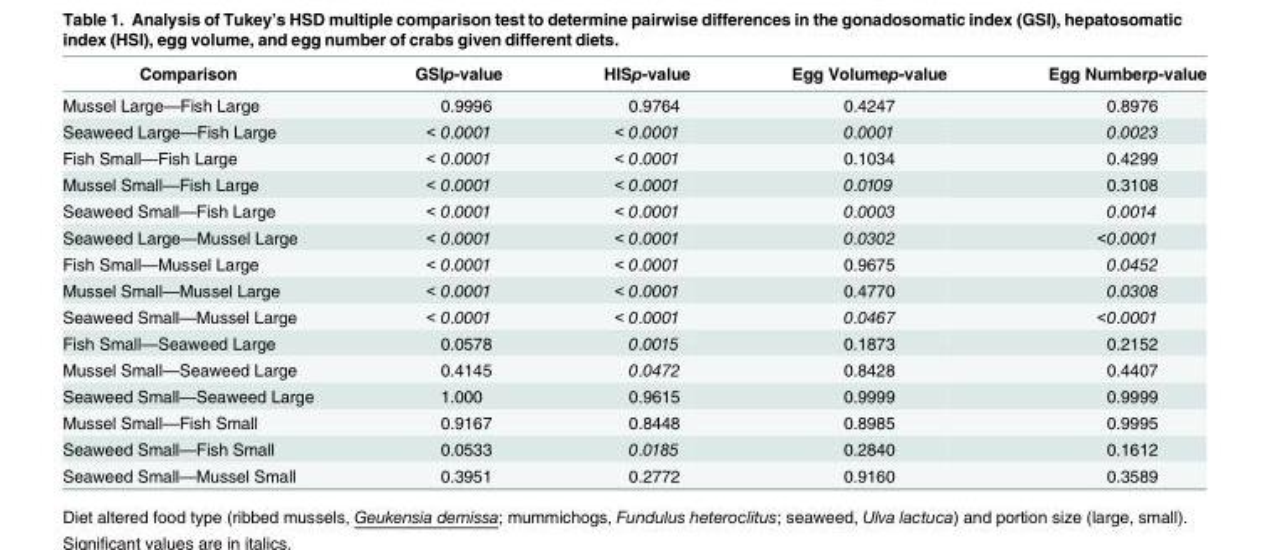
<table><thead><tr><td>Comparison</td><td>GSIp-value</td><td>HISp-value</td><td>Egg Volumep-value</td><td>Egg Numberp-value</td></tr></thead><tbody><tr><td>Mussel Large—Fish Large</td><td>0.9996</td><td>0.9764</td><td>0.4247</td><td>0.8976</td></tr><tr><td>Seaweed Large—Fish Large</td><td>&lt; 0.0001</td><td>&lt; 0.0001</td><td>0.0001</td><td>0.0023</td></tr><tr><td>Fish Small—Fish Large</td><td>&lt; 0.0001</td><td>&lt; 0.0001</td><td>0.1034</td><td>0.4299</td></tr><tr><td>Mussel Small—Fish Large</td><td>&lt; 0.0001</td><td>&lt; 0.0001</td><td>0.0109</td><td>0.3108</td></tr><tr><td>Seaweed Small—Fish Large</td><td>&lt; 0.0001</td><td>&lt; 0.0001</td><td>0.0003</td><td>0.0014</td></tr><tr><td>Seaweed Large—Mussel Large</td><td>&lt; 0.0001</td><td>&lt; 0.0001</td><td>0.0302</td><td>&lt;0.0001</td></tr><tr><td>Fish Small—Mussel Large</td><td>&lt; 0.0001</td><td>&lt; 0.0001</td><td>0.9675</td><td>0.0452</td></tr><tr><td>Mussel Small—Mussel Large</td><td>&lt; 0.0001</td><td>&lt; 0.0001</td><td>0.4770</td><td>0.0308</td></tr><tr><td>Seaweed Small—Mussel Large</td><td>&lt; 0.0001</td><td>&lt; 0.0001</td><td>0.0467</td><td>&lt;0.0001</td></tr><tr><td>Fish Small—Seaweed Large</td><td>0.0578</td><td>0.0015</td><td>0.1873</td><td>0.2152</td></tr><tr><td>Mussel Small—Seaweed Large</td><td>0.4145</td><td>0.0472</td><td>0.8428</td><td>0.4407</td></tr><tr><td>Seaweed Small—Seaweed Large</td><td>1.000</td><td>0.9615</td><td>0.9999</td><td>0.9999</td></tr><tr><td>Mussel Small—Fish Small</td><td>0.9167</td><td>0.8448</td><td>0.8985</td><td>0.9995</td></tr><tr><td>Seaweed Small—Fish Small</td><td>0.0533</td><td>0.0185</td><td>0.2840</td><td>0.1612</td></tr><tr><td>Seaweed Small—Mussel Small</td><td>0.3951</td><td>0.2772</td><td>0.9160</td><td>0.3589</td></tr></tbody></table>